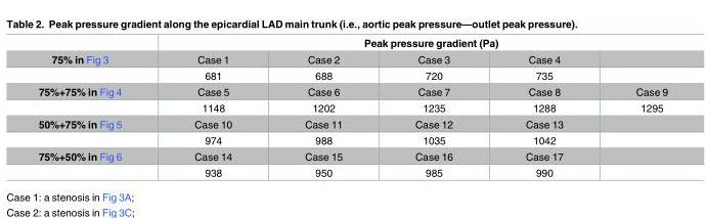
<table><thead><tr><td rowspan="2">75% in Fig 3</td><td colspan="5">Peak pressure gradient (Pa)</td></tr><tr><td>Case 1</td><td>Case 2</td><td>Case 3</td><td>Case 4</td><td></td></tr></thead><tbody><tr><td></td><td>681</td><td>688</td><td>720</td><td>735</td><td></td></tr><tr><td rowspan="2">75%+75% in Fig 4</td><td>Case 5</td><td>Case 6</td><td>Case 7</td><td>Case 8</td><td>Case 9</td></tr><tr><td>1148</td><td>1202</td><td>1235</td><td>1288</td><td>1295</td></tr><tr><td rowspan="2">50%+75% in Fig 5</td><td>Case 10</td><td>Case 11</td><td>Case 12</td><td>Case 13</td><td></td></tr><tr><td>974</td><td>988</td><td>1035</td><td>1042</td><td></td></tr><tr><td rowspan="2">75%+50% in Fig 6</td><td>Case 14</td><td>Case 15</td><td>Case 16</td><td>Case 17</td><td></td></tr><tr><td>938</td><td>950</td><td>985</td><td>990</td><td></td></tr></tbody></table>